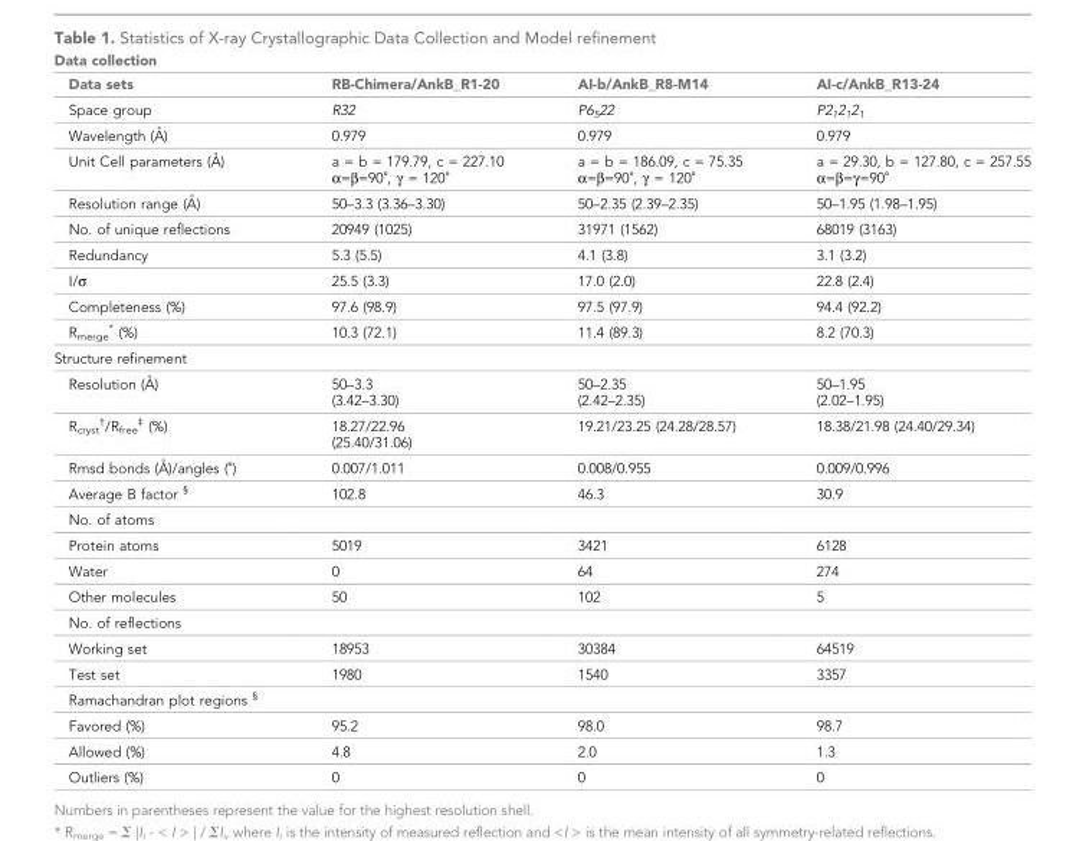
<table><thead><tr><td colspan="4">Data collection</td></tr><tr><td>Data sets</td><td>RB-Chimera/AnkB_R1-20</td><td>AI-b/AnkB_R8-M14</td><td>AI-c/AnkB_R13-24</td></tr></thead><tbody><tr><td>Space group</td><td>R32</td><td>P6<sub>5</sub>22</td><td>P2<sub>1</sub>2<sub>1</sub>2<sub>1</sub></td></tr><tr><td>Wavelength (A˚ )</td><td>0.979</td><td>0.979</td><td>0.979</td></tr><tr><td>Unit Cell parameters (A˚ )</td><td>a = b = 179.79, c = 227.10 α=β=90˚, γ = 120˚</td><td>a = b = 186.09, c = 75.35 α=β=90˚, γ = 120˚</td><td>a = 29.30, b = 127.80, c = 257.55 α=β=γ=90˚</td></tr><tr><td>Resolution range (A˚ )</td><td>50–3.3 (3.36–3.30)</td><td>50–2.35 (2.39–2.35)</td><td>50–1.95 (1.98–1.95)</td></tr><tr><td>No. of unique reflections</td><td>20949 (1025)</td><td>31971 (1562)</td><td>68019 (3163)</td></tr><tr><td>Redundancy</td><td>5.3 (5.5)</td><td>4.1 (3.8)</td><td>3.1 (3.2)</td></tr><tr><td>I/σ</td><td>25.5 (3.3)</td><td>17.0 (2.0)</td><td>22.8 (2.4)</td></tr><tr><td>Completeness (%)</td><td>97.6 (98.9)</td><td>97.5 (97.9)</td><td>94.4 (92.2)</td></tr><tr><td>R<sub>merge *</sub> (%)</td><td>10.3 (72.1)</td><td>11.4 (89.3)</td><td>8.2 (70.3)</td></tr><tr><td colspan="4">Structure refinement</td></tr><tr><td>Resolution (A˚ )</td><td>50–3.3 (3.42–3.30)</td><td>50–2.35 (2.42–2.35)</td><td>50–1.95 (2.02–1.95)</td></tr><tr><td>R<sub>cryst </sub><sup><sub>†</sub></sup>/R<sub>free </sub><sup><sub>‡</sub></sup> (%)</td><td>18.27/22.96 (25.40/31.06)</td><td>19.21/23.25 (24.28/28.57)</td><td>18.38/21.98 (24.40/29.34)</td></tr><tr><td>Rmsd bonds (A˚ )/angles (˚)</td><td>0.007/1.011</td><td>0.008/0.955</td><td>0.009/0.996</td></tr><tr><td>Average B factor <sup>§</sup></td><td>102.8</td><td>46.3</td><td>30.9</td></tr><tr><td colspan="4">No. of atoms</td></tr><tr><td>Protein atoms</td><td>5019</td><td>3421</td><td>6128</td></tr><tr><td>Water</td><td>0</td><td>64</td><td>274</td></tr><tr><td>Other molecules</td><td>50</td><td>102</td><td>5</td></tr><tr><td colspan="4">No. of reflections</td></tr><tr><td>Working set</td><td>18953</td><td>30384</td><td>64519</td></tr><tr><td>Test set</td><td>1980</td><td>1540</td><td>3357</td></tr><tr><td colspan="4">Ramachandran plot regions <sup>§</sup></td></tr><tr><td>Favored (%)</td><td>95.2</td><td>98.0</td><td>98.7</td></tr><tr><td>Allowed (%)</td><td>4.8</td><td>2.0</td><td>1.3</td></tr><tr><td>Outliers (%)</td><td>0</td><td>0</td><td>0</td></tr></tbody></table>